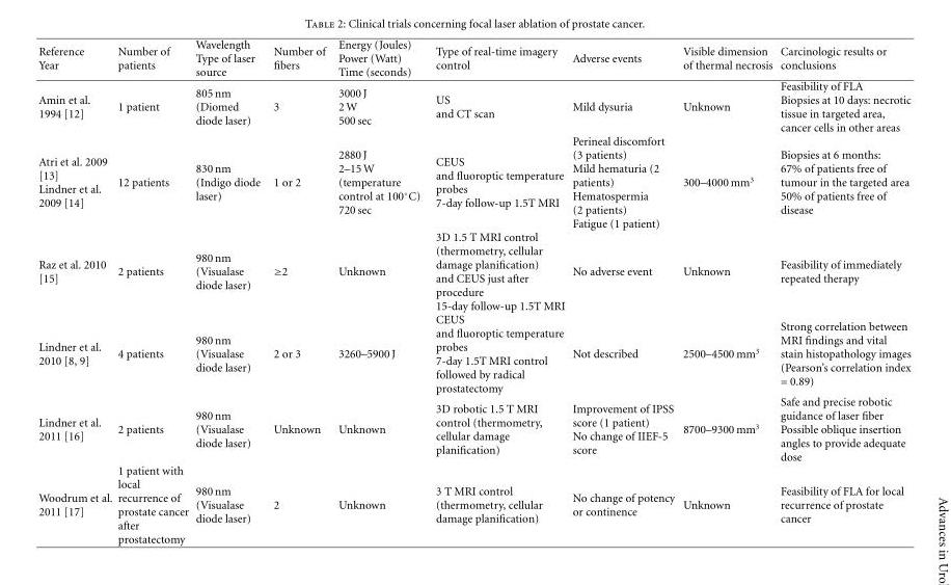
<table><thead><tr><td>Reference Year</td><td>Number of patients</td><td>Wavelength Type of laser source</td><td>Number of fibers</td><td>Energy (Joules) Power (Watt) Time (seconds)</td><td>Type of real-time imagery control</td><td>Adverse events</td><td>Visible dimension of thermal necrosis</td><td>Carcinologic results or conclusions</td></tr></thead><tbody><tr><td>Amin et al. 1994 [12]</td><td>1 patient</td><td>805 nm (Diomed diode laser)</td><td>3</td><td>3000 J 2 W 500 sec</td><td>US and CT scan</td><td>Mild dysuria</td><td>Unknown</td><td>Feasibility of FLA Biopsies at 10 days: necrotic tissue in targeted area, cancer cells in other areas</td></tr><tr><td>Atri et al. 2009 [13] Lindner et al. 2009 [14]</td><td>12 patients</td><td>830 nm (Indigo diode laser)</td><td>1 or 2</td><td>2880 J 2–15 W (temperature control at 100◦C) 720 sec</td><td>CEUS and fluoroptic temperature probes 7-day follow-up 1.5T MRI</td><td>Perineal discomfort (3 patients) Mild hematuria (2 patients) Hematospermia (2 patients) Fatigue (1 patient)</td><td>300–4000 mm<sup>3</sup></td><td>Biopsies at 6 months: 67% of patients free of tumour in the targeted area 50% of patients free of disease</td></tr><tr><td>Raz et al. 2010 [15]</td><td>2 patients</td><td>980 nm (Visualase diode laser)</td><td>≥2</td><td>Unknown</td><td>3D 1.5 T MRI control (thermometry, cellular damage planification) and CEUS just after procedure 15-day follow-up 1.5T MRI</td><td>No adverse event</td><td>Unknown</td><td>Feasibility of immediately repeated therapy</td></tr><tr><td>Lindner et al. 2010 [8, 9]</td><td>4 patients</td><td>980 nm (Visualase diode laser)</td><td>2 or 3</td><td>3260–5900 J</td><td>CEUS and fluoroptic temperature probes 7-day 1.5T MRI control followed by radical prostatectomy</td><td>Not described</td><td>2500–4500 mm<sup>3</sup></td><td>Strong correlation between MRI findings and vital stain histopathology images (Pearson’s correlation index = 0.89)</td></tr><tr><td>Lindner et al. 2011 [16]</td><td>2 patients</td><td>980 nm (Visualase diode laser)</td><td>Unknown</td><td>Unknown</td><td>3D robotic 1.5 T MRI control (thermometry, cellular damage planification)</td><td>Improvement of IPSS score (1 patient) No change of IIEF-5 score</td><td>8700–9300 mm<sup>3</sup></td><td>Safe and precise robotic guidance of laser fiber Possible oblique insertion angles to provide adequate dose</td></tr><tr><td>Woodrum et al. 2011 [17]</td><td>1 patient with local recurrence of prostate cancer after prostatectomy</td><td>980 nm (Visualase diode laser)</td><td>2</td><td>Unknown</td><td>3 T MRI control (thermometry, cellular damage planification)</td><td>No change of potency or continence</td><td>Unknown</td><td>Feasibility of FLA for local recurrence of prostate cancer</td></tr></tbody></table>